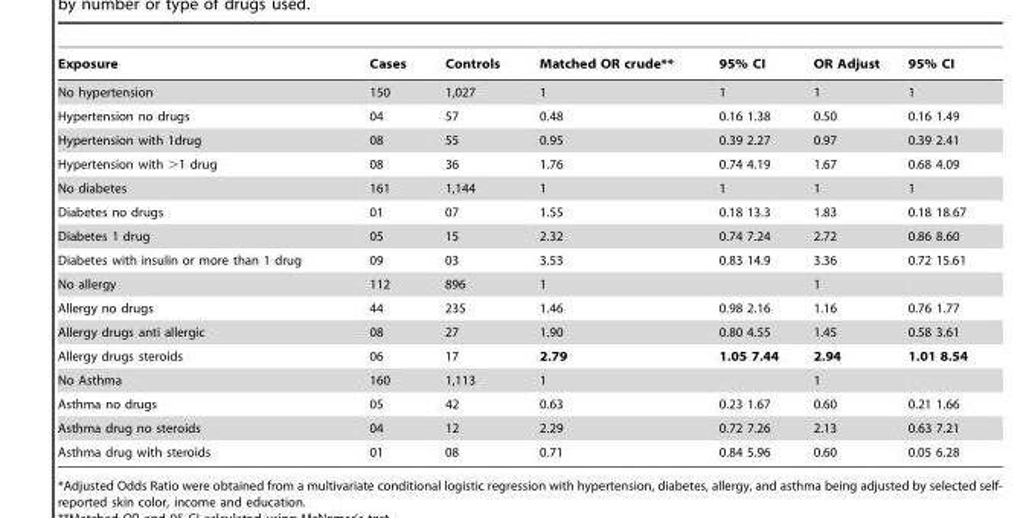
<table><thead><tr><td>Exposure</td><td>Cases</td><td>Controls</td><td>Matched OR crude**</td><td>95% CI</td><td>OR Adjust</td><td>95% CI</td></tr></thead><tbody><tr><td>No hypertension</td><td>150</td><td>1,027</td><td>1</td><td>1</td><td>1</td><td>1</td></tr><tr><td>Hypertension no drugs</td><td>04</td><td>57</td><td>0.48</td><td>0.16 1.38</td><td>0.50</td><td>0.16 1.49</td></tr><tr><td>Hypertension with 1drug</td><td>08</td><td>55</td><td>0.95</td><td>0.39 2.27</td><td>0.97</td><td>0.39 2.41</td></tr><tr><td>Hypertension with &gt;1 drug</td><td>08</td><td>36</td><td>1.76</td><td>0.74 4.19</td><td>1.67</td><td>0.68 4.09</td></tr><tr><td>No diabetes</td><td>161</td><td>1,144</td><td>1</td><td>1</td><td>1</td><td>1</td></tr><tr><td>Diabetes no drugs</td><td>01</td><td>07</td><td>1.55</td><td>0.18 13.3</td><td>1.83</td><td>0.18 18.67</td></tr><tr><td>Diabetes 1 drug</td><td>05</td><td>15</td><td>2.32</td><td>0.74 7.24</td><td>2.72</td><td>0.86 8.60</td></tr><tr><td>Diabetes with insulin or more than 1 drug</td><td>09</td><td>03</td><td>3.53</td><td>0.83 14.9</td><td>3.36</td><td>0.72 15.61</td></tr><tr><td>No allergy</td><td>112</td><td>896</td><td>1</td><td></td><td>1</td><td></td></tr><tr><td>Allergy no drugs</td><td>44</td><td>235</td><td>1.46</td><td>0.98 2.16</td><td>1.16</td><td>0.76 1.77</td></tr><tr><td>Allergy drugs anti allergic</td><td>08</td><td>27</td><td>1.90</td><td>0.80 4.55</td><td>1.45</td><td>0.58 3.61</td></tr><tr><td>Allergy drugs steroids</td><td>06</td><td>17</td><td>2.79</td><td>1.05 7.44</td><td>2.94</td><td>1.01 8.54</td></tr><tr><td>No Asthma</td><td>160</td><td>1,113</td><td>1</td><td></td><td>1</td><td></td></tr><tr><td>Asthma no drugs</td><td>05</td><td>42</td><td>0.63</td><td>0.23 1.67</td><td>0.60</td><td>0.21 1.66</td></tr><tr><td>Asthma drug no steroids</td><td>04</td><td>12</td><td>2.29</td><td>0.72 7.26</td><td>2.13</td><td>0.63 7.21</td></tr><tr><td>Asthma drug with steroids</td><td>01</td><td>08</td><td>0.71</td><td>0.84 5.96</td><td>0.60</td><td>0.05 6.28</td></tr></tbody></table>